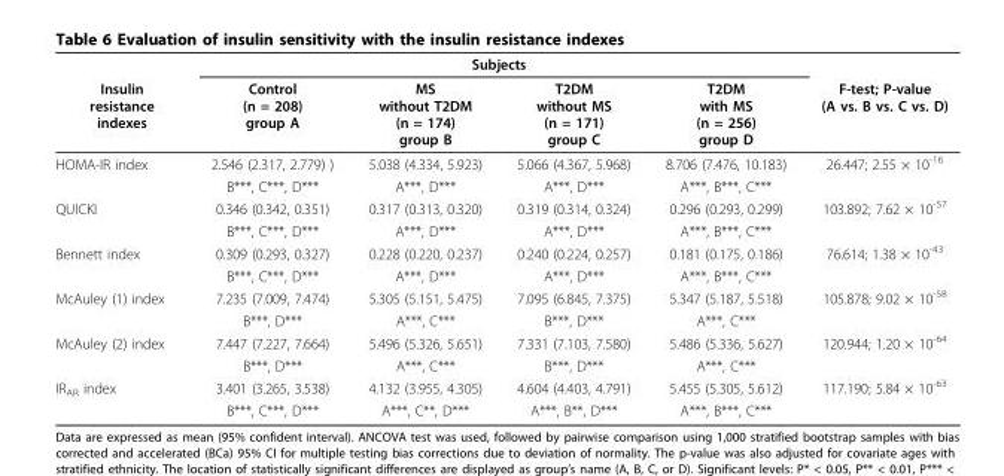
<table><thead><tr><td rowspan="2">Insulin resistance indexes</td><td colspan="4">Subjects</td><td rowspan="2">F-test; P-value (A vs. B vs. C vs. D)</td></tr><tr><td>Control (n = 208) group A</td><td>MS without T2DM (n = 174) group B</td><td>T2DM without MS (n = 171) group C</td><td>T2DM with MS (n = 256) group D</td></tr></thead><tbody><tr><td rowspan="2">HOMA-IR index</td><td>2.546 (2.317, 2.779) )</td><td>5.038 (4.334, 5.923)</td><td>5.066 (4.367, 5.968)</td><td>8.706 (7.476, 10.183)</td><td>26.447; 2.55 × 10<sup>-16</sup></td></tr><tr><td>B***, C***, D***</td><td>A***, D***</td><td>A***, D***</td><td>A***, B***, C***</td><td></td></tr><tr><td rowspan="2">QUICKI</td><td>0.346 (0.342, 0.351)</td><td>0.317 (0.313, 0.320)</td><td>0.319 (0.314, 0.324)</td><td>0.296 (0.293, 0.299)</td><td>103.892; 7.62 × 10<sup>-57</sup></td></tr><tr><td>B***, C***, D***</td><td>A***, D***</td><td>A***, D***</td><td>A***, B***, C***</td><td></td></tr><tr><td rowspan="2">Bennett index</td><td>0.309 (0.293, 0.327)</td><td>0.228 (0.220, 0.237)</td><td>0.240 (0.224, 0.257)</td><td>0.181 (0.175, 0.186)</td><td>76.614; 1.38 × 10<sup>-43</sup></td></tr><tr><td>B***, C***, D***</td><td>A***, D***</td><td>A***, D***</td><td>A***, B***, C***</td><td></td></tr><tr><td rowspan="2">McAuley (1) index</td><td>7.235 (7.009, 7.474)</td><td>5.305 (5.151, 5.475)</td><td>7.095 (6.845, 7.375)</td><td>5.347 (5.187, 5.518)</td><td>105.878; 9.02 × 10<sup>-58</sup></td></tr><tr><td>B***, D***</td><td>A***, C***</td><td>B***, D***</td><td>A***, C***</td><td></td></tr><tr><td rowspan="2">McAuley (2) index</td><td>7.447 (7.227, 7.664)</td><td>5.496 (5.326, 5.651)</td><td>7.331 (7.103, 7.580)</td><td>5.486 (5.336, 5.627)</td><td>120.944; 1.20 × 10<sup>-64</sup></td></tr><tr><td>B***, D***</td><td>A***, C***</td><td>B***, D***</td><td>A***, C***</td><td></td></tr><tr><td rowspan="2">IR<sub>AR</sub> index</td><td>3.401 (3.265, 3.538)</td><td>4.132 (3.955, 4.305)</td><td>4.604 (4.403, 4.791)</td><td>5.455 (5.305, 5.612)</td><td>117.190; 5.84 × 10<sup>-63</sup></td></tr><tr><td>B***, C***, D***</td><td>A***, C**, D***</td><td>A***, B**, D***</td><td>A***, B***, C***</td><td></td></tr></tbody></table>